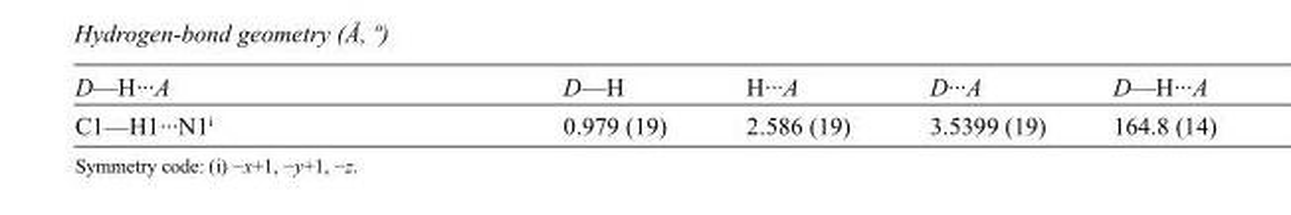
<table><tbody><tr><td>D—H···A</td><td>D—H</td><td>H···A</td><td>D···A</td><td>D—H···A</td></tr><tr><td>C1—H1···N1<sup>i</sup></td><td>0.979 (19)</td><td>2.586 (19)</td><td>3.5399 (19)</td><td>164.8 (14)</td></tr></tbody></table>